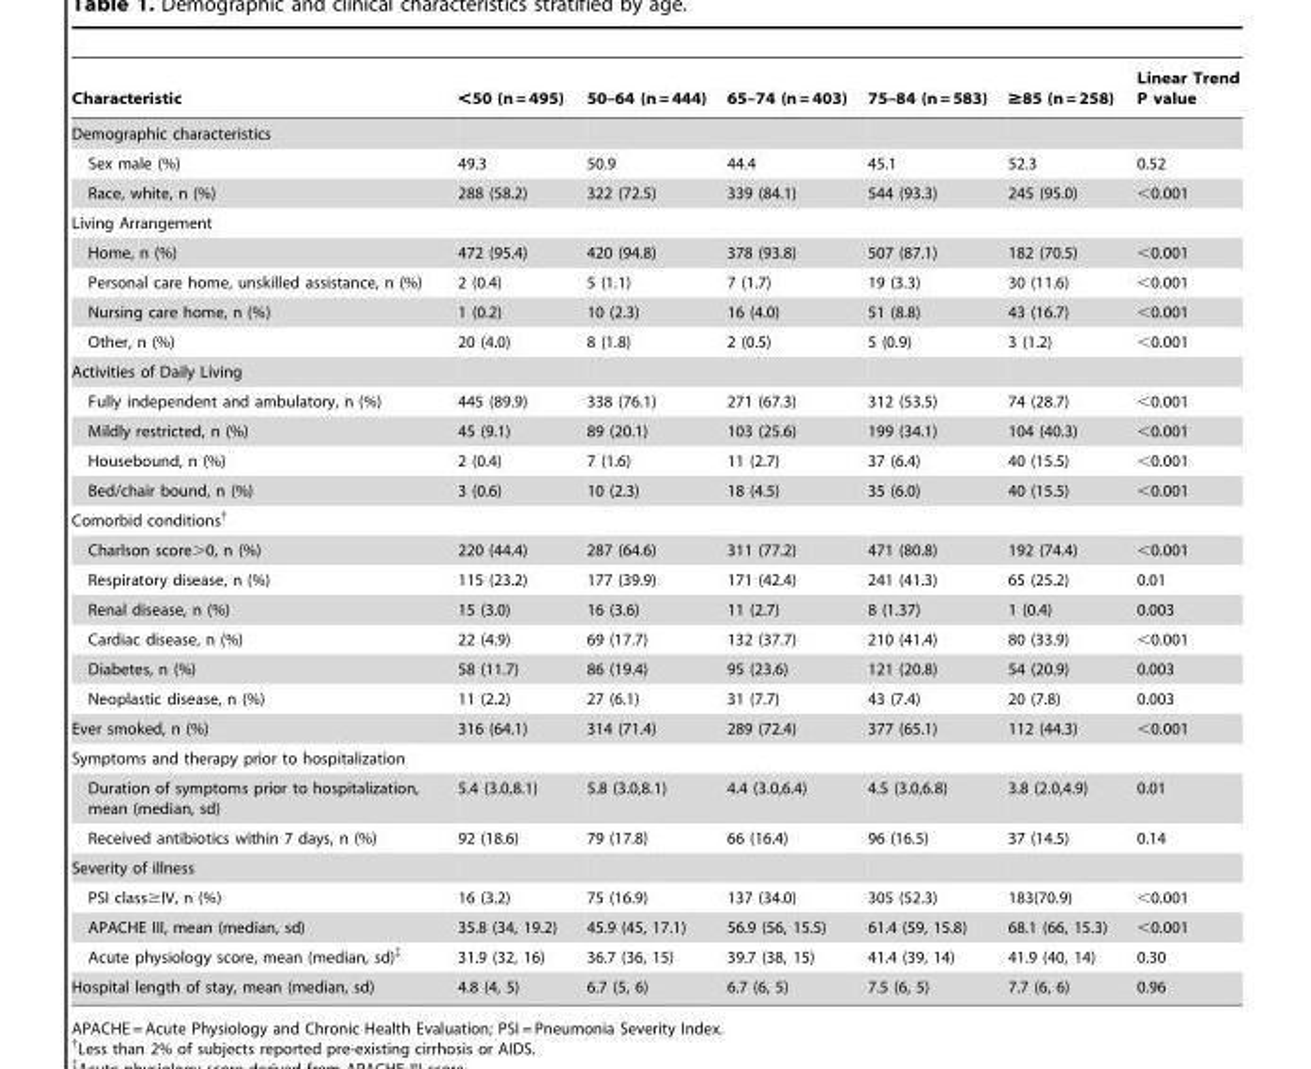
<table><thead><tr><td>Characteristic</td><td>&lt;50 (n = 495)</td><td>50–64 (n = 444)</td><td>65–74 (n = 403)</td><td>75–84 (n = 583)</td><td>≥85 (n = 258)</td><td>Linear Trend P value</td></tr></thead><tbody><tr><td colspan="7">Demographic characteristics</td></tr><tr><td>Sex male (%)</td><td>49.3</td><td>50.9</td><td>44.4</td><td>45.1</td><td>52.3</td><td>0.52</td></tr><tr><td>Race, white, n (%)</td><td>288 (58.2)</td><td>322 (72.5)</td><td>339 (84.1)</td><td>544 (93.3)</td><td>245 (95.0)</td><td>&lt;0.001</td></tr><tr><td colspan="7">Living Arrangement</td></tr><tr><td>Home, n (%)</td><td>472 (95.4)</td><td>420 (94.8)</td><td>378 (93.8)</td><td>507 (87.1)</td><td>182 (70.5)</td><td>&lt;0.001</td></tr><tr><td>Personal care home, unskilled assistance, n (%)</td><td>2 (0.4)</td><td>5 (1.1)</td><td>7 (1.7)</td><td>19 (3.3)</td><td>30 (11.6)</td><td>&lt;0.001</td></tr><tr><td>Nursing care home, n (%)</td><td>1 (0.2)</td><td>10 (2.3)</td><td>16 (4.0)</td><td>51 (8.8)</td><td>43 (16.7)</td><td>&lt;0.001</td></tr><tr><td>Other, n (%)</td><td>20 (4.0)</td><td>8 (1.8)</td><td>2 (0.5)</td><td>5 (0.9)</td><td>3 (1.2)</td><td>&lt;0.001</td></tr><tr><td colspan="7">Activities of Daily Living</td></tr><tr><td>Fully independent and ambulatory, n (%)</td><td>445 (89.9)</td><td>338 (76.1)</td><td>271 (67.3)</td><td>312 (53.5)</td><td>74 (28.7)</td><td>&lt;0.001</td></tr><tr><td>Mildly restricted, n (%)</td><td>45 (9.1)</td><td>89 (20.1)</td><td>103 (25.6)</td><td>199 (34.1)</td><td>104 (40.3)</td><td>&lt;0.001</td></tr><tr><td>Housebound, n (%)</td><td>2 (0.4)</td><td>7 (1.6)</td><td>11 (2.7)</td><td>37 (6.4)</td><td>40 (15.5)</td><td>&lt;0.001</td></tr><tr><td>Bed/chair bound, n (%)</td><td>3 (0.6)</td><td>10 (2.3)</td><td>18 (4.5)</td><td>35 (6.0)</td><td>40 (15.5)</td><td>&lt;0.001</td></tr><tr><td colspan="7">Comorbid conditions†</td></tr><tr><td>Charlson score&gt;0, n (%)</td><td>220 (44.4)</td><td>287 (64.6)</td><td>311 (77.2)</td><td>471 (80.8)</td><td>192 (74.4)</td><td>&lt;0.001</td></tr><tr><td>Respiratory disease, n (%)</td><td>115 (23.2)</td><td>177 (39.9)</td><td>171 (42.4)</td><td>241 (41.3)</td><td>65 (25.2)</td><td>0.01</td></tr><tr><td>Renal disease, n (%)</td><td>15 (3.0)</td><td>16 (3.6)</td><td>11 (2.7)</td><td>8 (1.37)</td><td>1 (0.4)</td><td>0.003</td></tr><tr><td>Cardiac disease, n (%)</td><td>22 (4.9)</td><td>69 (17.7)</td><td>132 (37.7)</td><td>210 (41.4)</td><td>80 (33.9)</td><td>&lt;0.001</td></tr><tr><td>Diabetes, n (%)</td><td>58 (11.7)</td><td>86 (19.4)</td><td>95 (23.6)</td><td>121 (20.8)</td><td>54 (20.9)</td><td>0.003</td></tr><tr><td>Neoplastic disease, n (%)</td><td>11 (2.2)</td><td>27 (6.1)</td><td>31 (7.7)</td><td>43 (7.4)</td><td>20 (7.8)</td><td>0.003</td></tr><tr><td>Ever smoked, n (%)</td><td>316 (64.1)</td><td>314 (71.4)</td><td>289 (72.4)</td><td>377 (65.1)</td><td>112 (44.3)</td><td>&lt;0.001</td></tr><tr><td colspan="7">Symptoms and therapy prior to hospitalization</td></tr><tr><td>Duration of symptoms prior to hospitalization, mean (median, sd)</td><td>5.4 (3.0,8.1)</td><td>5.8 (3.0,8.1)</td><td>4.4 (3.0,6.4)</td><td>4.5 (3.0,6.8)</td><td>3.8 (2.0,4.9)</td><td>0.01</td></tr><tr><td>Received antibiotics within 7 days, n (%)</td><td>92 (18.6)</td><td>79 (17.8)</td><td>66 (16.4)</td><td>96 (16.5)</td><td>37 (14.5)</td><td>0.14</td></tr><tr><td colspan="7">Severity of illness</td></tr><tr><td>PSI class≥IV, n (%)</td><td>16 (3.2)</td><td>75 (16.9)</td><td>137 (34.0)</td><td>305 (52.3)</td><td>183(70.9)</td><td>&lt;0.001</td></tr><tr><td>APACHE III, mean (median, sd)</td><td>35.8 (34, 19.2)</td><td>45.9 (45, 17.1)</td><td>56.9 (56, 15.5)</td><td>61.4 (59, 15.8)</td><td>68.1 (66, 15.3)</td><td>&lt;0.001</td></tr><tr><td>Acute physiology score, mean (median, sd)‡</td><td>31.9 (32, 16)</td><td>36.7 (36, 15)</td><td>39.7 (38, 15)</td><td>41.4 (39, 14)</td><td>41.9 (40, 14)</td><td>0.30</td></tr><tr><td>Hospital length of stay, mean (median, sd)</td><td>4.8 (4, 5)</td><td>6.7 (5, 6)</td><td>6.7 (6, 5)</td><td>7.5 (6, 5)</td><td>7.7 (6, 6)</td><td>0.96</td></tr></tbody></table>